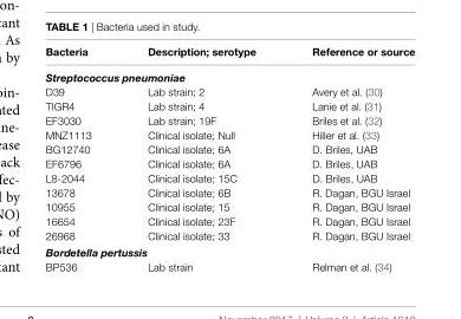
<table><thead><tr><td>bacteria</td><td>Description; serotype</td><td>reference or source</td></tr></thead><tbody><tr><td colspan="3">Streptococcus pneumoniae</td></tr><tr><td>D39</td><td>Lab strain; 2</td><td>Avery et al. (30)</td></tr><tr><td>TIGR4</td><td>Lab strain; 4</td><td>Lanie et al. (31)</td></tr><tr><td>EF3030</td><td>Lab strain; 19F</td><td>Briles et al. (32)</td></tr><tr><td>MNZ1113</td><td>Clinical isolate; Null</td><td>Hiller et al. (33)</td></tr><tr><td>BG12740</td><td>Clinical isolate; 6A</td><td>D. Briles, UAB</td></tr><tr><td>EF6796</td><td>Clinical isolate; 6A</td><td>D. Briles, UAB</td></tr><tr><td>L8-2044</td><td>Clinical isolate; 15C</td><td>D. Briles, UAB</td></tr><tr><td>13678</td><td>Clinical isolate; 6B</td><td>R. Dagan, BGU Israel</td></tr><tr><td>10955</td><td>Clinical isolate; 15</td><td>R. Dagan, BGU Israel</td></tr><tr><td>16654</td><td>Clinical isolate; 23F</td><td>R. Dagan, BGU Israel</td></tr><tr><td>26968</td><td>Clinical isolate; 33</td><td>R. Dagan, BGU Israel</td></tr><tr><td colspan="3">Bordetella pertussis</td></tr><tr><td>BP536</td><td>Lab strain</td><td>Relman et al. (34)</td></tr></tbody></table>